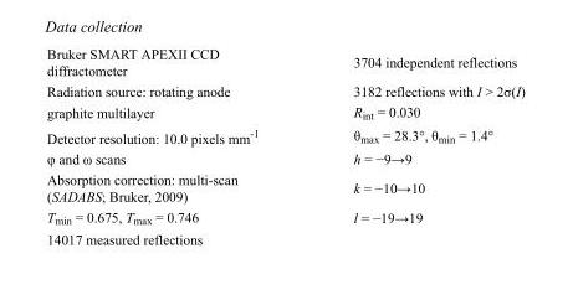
<table><tbody><tr><td>Bruker SMART APEXII CCD diffractometer</td><td>3704 independent reflections</td></tr><tr><td>Radiation source: rotating anode</td><td>3182 reflections with I &gt; 2σ(I)</td></tr><tr><td>graphite multilayer</td><td>R<sub>int</sub> = 0.030</td></tr><tr><td>Detector resolution: 10.0 pixels mm<sup>-1</sup></td><td>θ<sub>max</sub> = 28.3°, θ<sub>min</sub> = 1.4°</td></tr><tr><td>φ and ω scans</td><td>h = −9→9</td></tr><tr><td>Absorption correction: multi-scan (SADABS; Bruker, 2009)</td><td>k = −10→10</td></tr><tr><td>T<sub>min</sub> = 0.675, T<sub>max</sub> = 0.746</td><td>l = −19→19</td></tr><tr><td>14017 measured reflections</td><td></td></tr></tbody></table>